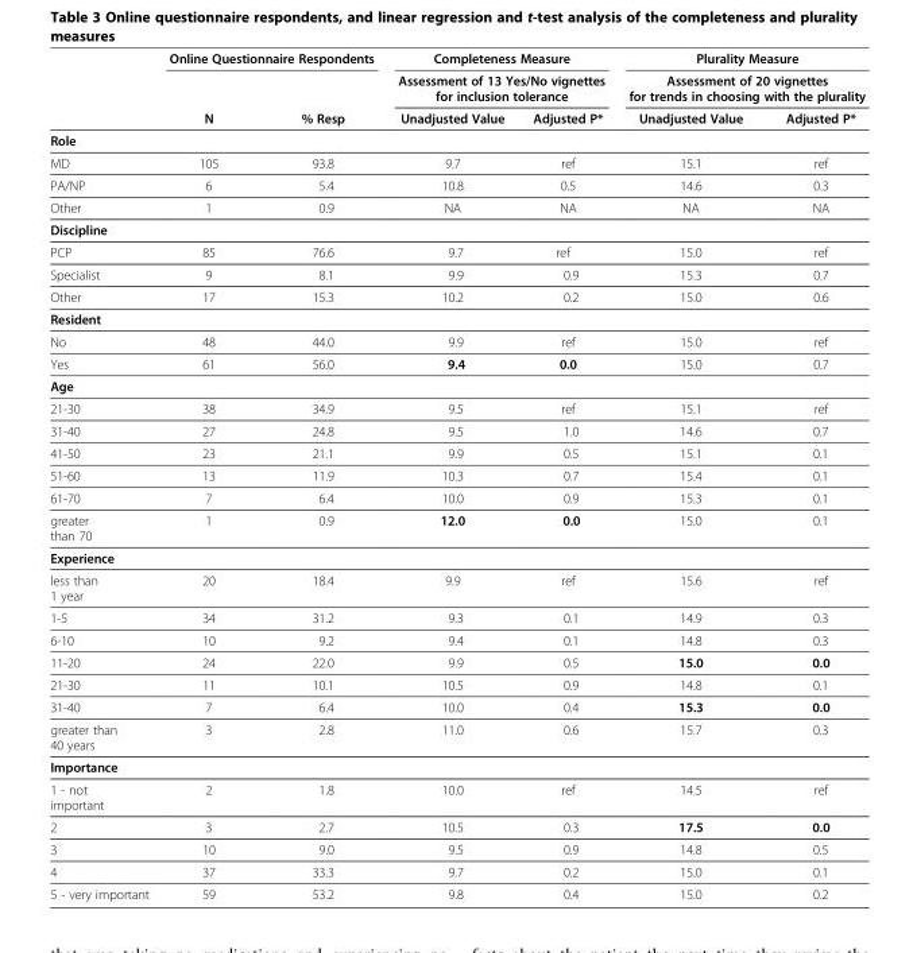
<table><thead><tr><td rowspan="3"></td><td colspan="2">Online Questionnaire Respondents</td><td rowspan="2" colspan="2">Completeness Measure Assessment of 13 Yes/No vignettes for inclusion tolerance</td><td rowspan="2" colspan="2">Plurality Measure Assessment of 20 vignettes for trends in choosing with the plurality</td></tr><tr><td rowspan="2">N</td><td rowspan="2">% Resp</td></tr><tr><td>Unadjusted Value</td><td>Adjusted P*</td><td>Unadjusted Value</td><td>Adjusted P*</td></tr></thead><tbody><tr><td colspan="7">Role</td></tr><tr><td>MD</td><td>105</td><td>93.8</td><td>9.7</td><td>ref</td><td>15.1</td><td>ref</td></tr><tr><td>PA/NP</td><td>6</td><td>5.4</td><td>10.8</td><td>0.5</td><td>14.6</td><td>0.3</td></tr><tr><td>Other</td><td>1</td><td>0.9</td><td>NA</td><td>NA</td><td>NA</td><td>NA</td></tr><tr><td colspan="7">Discipline</td></tr><tr><td>PCP</td><td>85</td><td>76.6</td><td>9.7</td><td>ref</td><td>15.0</td><td>ref</td></tr><tr><td>Specialist</td><td>9</td><td>8.1</td><td>9.9</td><td>0.9</td><td>15.3</td><td>0.7</td></tr><tr><td>Other</td><td>17</td><td>15.3</td><td>10.2</td><td>0.2</td><td>15.0</td><td>0.6</td></tr><tr><td colspan="7">Resident</td></tr><tr><td>No</td><td>48</td><td>44.0</td><td>9.9</td><td>ref</td><td>15.0</td><td>ref</td></tr><tr><td>Yes</td><td>61</td><td>56.0</td><td>9.4</td><td>0.0</td><td>15.0</td><td>0.7</td></tr><tr><td colspan="7">Age</td></tr><tr><td>21-30</td><td>38</td><td>34.9</td><td>9.5</td><td>ref</td><td>15.1</td><td>ref</td></tr><tr><td>31-40</td><td>27</td><td>24.8</td><td>9.5</td><td>1.0</td><td>14.6</td><td>0.7</td></tr><tr><td>41-50</td><td>23</td><td>21.1</td><td>9.9</td><td>0.5</td><td>15.1</td><td>0.1</td></tr><tr><td>51-60</td><td>13</td><td>11.9</td><td>10.3</td><td>0.7</td><td>15.4</td><td>0.1</td></tr><tr><td>61-70</td><td>7</td><td>6.4</td><td>10.0</td><td>0.9</td><td>15.3</td><td>0.1</td></tr><tr><td>greater than 70</td><td>1</td><td>0.9</td><td>12.0</td><td>0.0</td><td>15.0</td><td>0.1</td></tr><tr><td colspan="7">Experience</td></tr><tr><td>less than 1 year</td><td>20</td><td>18.4</td><td>9.9</td><td>ref</td><td>15.6</td><td>ref</td></tr><tr><td>1-5</td><td>34</td><td>31.2</td><td>9.3</td><td>0.1</td><td>14.9</td><td>0.3</td></tr><tr><td>6-10</td><td>10</td><td>9.2</td><td>9.4</td><td>0.1</td><td>14.8</td><td>0.3</td></tr><tr><td>11-20</td><td>24</td><td>22.0</td><td>9.9</td><td>0.5</td><td>15.0</td><td>0.0</td></tr><tr><td>21-30</td><td>11</td><td>10.1</td><td>10.5</td><td>0.9</td><td>14.8</td><td>0.1</td></tr><tr><td>31-40</td><td>7</td><td>6.4</td><td>10.0</td><td>0.4</td><td>15.3</td><td>0.0</td></tr><tr><td>greater than 40 years</td><td>3</td><td>2.8</td><td>11.0</td><td>0.6</td><td>15.7</td><td>0.3</td></tr><tr><td colspan="7">Importance</td></tr><tr><td>1 - not important</td><td>2</td><td>1.8</td><td>10.0</td><td>ref</td><td>14.5</td><td>ref</td></tr><tr><td>2</td><td>3</td><td>2.7</td><td>10.5</td><td>0.3</td><td>17.5</td><td>0.0</td></tr><tr><td>3</td><td>10</td><td>9.0</td><td>9.5</td><td>0.9</td><td>14.8</td><td>0.5</td></tr><tr><td>4</td><td>37</td><td>33.3</td><td>9.7</td><td>0.2</td><td>15.0</td><td>0.1</td></tr><tr><td>5 - very important</td><td>59</td><td>53.2</td><td>9.8</td><td>0.4</td><td>15.0</td><td>0.2</td></tr></tbody></table>